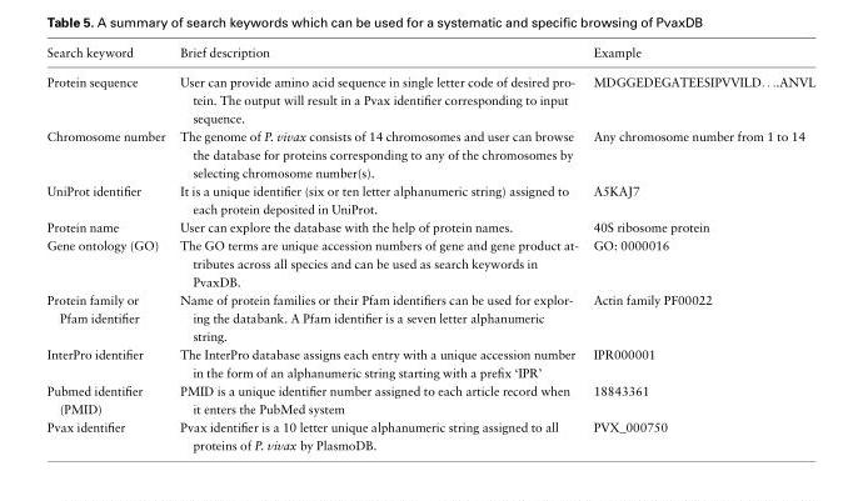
<table><thead><tr><td>Search keyword</td><td>Brief description</td><td>Example</td></tr></thead><tbody><tr><td>Protein sequence</td><td>User can provide amino acid sequence in single letter code of desired pro- tein. The output will result in a Pvax identifier corresponding to input sequence.</td><td>MDGGEDEGATEESIPVVILD. . ..ANVL</td></tr><tr><td>Chromosome number</td><td>The genome of P. vivax consists of 14 chromosomes and user can browse the database for proteins corresponding to any of the chromosomes by selecting chromosome number(s).</td><td>Any chromosome number from 1 to 14</td></tr><tr><td>UniProt identifier</td><td>It is a unique identifier (six or ten letter alphanumeric string) assigned to each protein deposited in UniProt.</td><td>A5KAJ7</td></tr><tr><td>Protein name</td><td>User can explore the database with the help of protein names.</td><td>40S ribosome protein</td></tr><tr><td>Gene ontology (GO)</td><td>The GO terms are unique accession numbers of gene and gene product at- tributes across all species and can be used as search keywords in PvaxDB.</td><td>GO: 0000016</td></tr><tr><td>Protein family or Pfam identifier</td><td>Name of protein families or their Pfam identifiers can be used for explor- ing the databank. A Pfam identifier is a seven letter alphanumeric string.</td><td>Actin family PF00022</td></tr><tr><td>InterPro identifier</td><td>The InterPro database assigns each entry with a unique accession number in the form of an alphanumeric string starting with a prefix ‘IPR’</td><td>IPR000001</td></tr><tr><td>Pubmed identifier (PMID)</td><td>PMID is a unique identifier number assigned to each article record when it enters the PubMed system</td><td>18843361</td></tr><tr><td>Pvax identifier</td><td>Pvax identifier is a 10 letter unique alphanumeric string assigned to all proteins of P. vivax by PlasmoDB.</td><td>PVX_000750</td></tr></tbody></table>